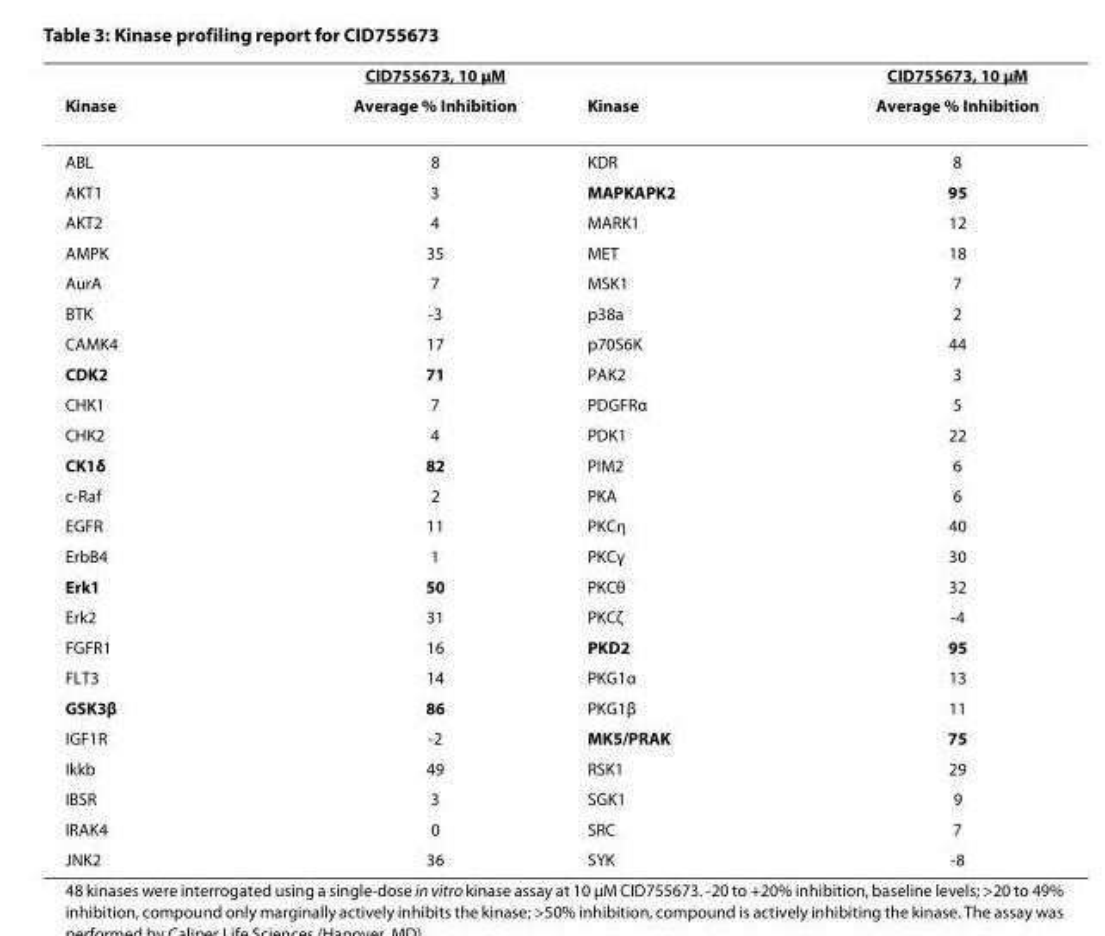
<table><thead><tr><td rowspan="2">Kinase</td><td rowspan="2">CID755673, 10 μM Average % Inhibition</td><td rowspan="2">Kinase</td><td rowspan="2">CID755673, 10 μM Average % Inhibition</td></tr><tr></tr></thead><tbody><tr><td>ABL</td><td>8</td><td>KDR</td><td>8</td></tr><tr><td>AKT1</td><td>3</td><td>MAPKAPK2</td><td>95</td></tr><tr><td>AKT2</td><td>4</td><td>MARK1</td><td>12</td></tr><tr><td>AMPK</td><td>35</td><td>MET</td><td>18</td></tr><tr><td>AurA</td><td>7</td><td>MSK1</td><td>7</td></tr><tr><td>BTK</td><td>-3</td><td>p38a</td><td>2</td></tr><tr><td>CAMK4</td><td>17</td><td>p70S6K</td><td>44</td></tr><tr><td>CDK2</td><td>71</td><td>PAK2</td><td>3</td></tr><tr><td>CHK1</td><td>7</td><td>PDGFRα</td><td>5</td></tr><tr><td>CHK2</td><td>4</td><td>PDK1</td><td>22</td></tr><tr><td>CK1δ</td><td>82</td><td>PIM2</td><td>6</td></tr><tr><td>c-Raf</td><td>2</td><td>PKA</td><td>6</td></tr><tr><td>EGFR</td><td>11</td><td>PKCη</td><td>40</td></tr><tr><td>ErbB4</td><td>1</td><td>PKCγ</td><td>30</td></tr><tr><td>Erk1</td><td>50</td><td>PKCθ</td><td>32</td></tr><tr><td>Erk2</td><td>31</td><td>PKCζ</td><td>-4</td></tr><tr><td>FGFR1</td><td>16</td><td>PKD2</td><td>95</td></tr><tr><td>FLT3</td><td>14</td><td>PKG1α</td><td>13</td></tr><tr><td>GSK3β</td><td>86</td><td>PKG1β</td><td>11</td></tr><tr><td>IGF1R</td><td>-2</td><td>MK5/PRAK</td><td>75</td></tr><tr><td>Ikkb</td><td>49</td><td>RSK1</td><td>29</td></tr><tr><td>IBSR</td><td>3</td><td>SGK1</td><td>9</td></tr><tr><td>IRAK4</td><td>0</td><td>SRC</td><td>7</td></tr><tr><td>JNK2</td><td>36</td><td>SYK</td><td>-8</td></tr></tbody></table>